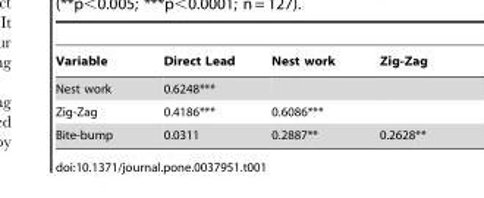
<table><thead><tr><td>Variable</td><td>Direct Lead</td><td>Nest work</td><td>Zig-Zag</td></tr></thead><tbody><tr><td>Nest work</td><td>0.6248***</td><td></td><td></td></tr><tr><td>Zig-Zag</td><td>0.4186***</td><td>0.6086***</td><td></td></tr><tr><td>Bite-bump</td><td>0.0311</td><td>0.2887**</td><td>0.2628**</td></tr></tbody></table>